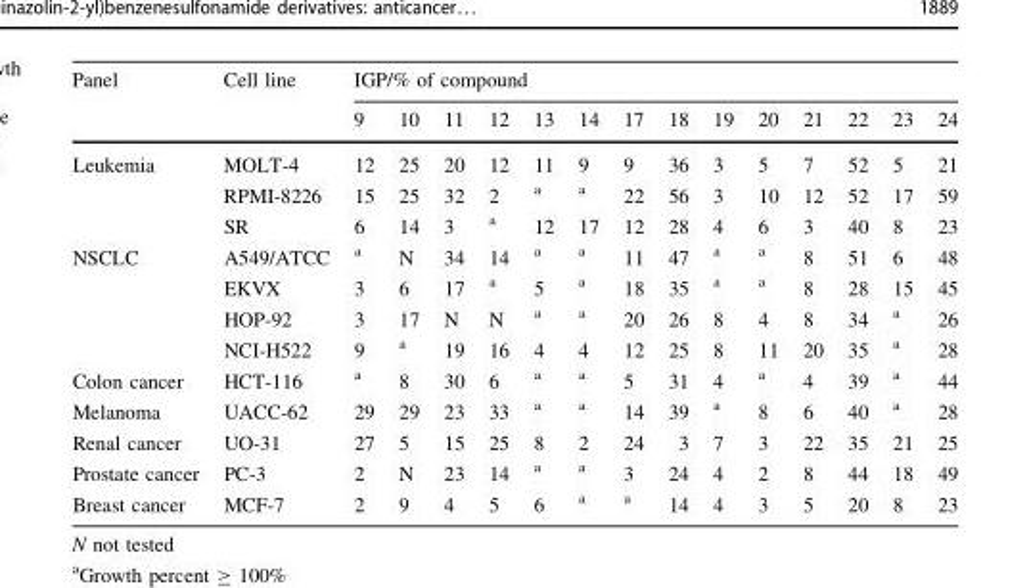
<table><thead><tr><td rowspan="2">Panel</td><td rowspan="2">Cell line</td><td colspan="14">IGP/% of compound</td></tr><tr><td>9</td><td>10</td><td>11</td><td>12</td><td>13</td><td>14</td><td>17</td><td>18</td><td>19</td><td>20</td><td>21</td><td>22</td><td>23</td><td>24</td></tr></thead><tbody><tr><td rowspan="3">Leukemia</td><td>MOLT-4</td><td>12</td><td>25</td><td>20</td><td>12</td><td>11</td><td>9</td><td>9</td><td>36</td><td>3</td><td>5</td><td>7</td><td>52</td><td>5</td><td>21</td></tr><tr><td>RPMI-8226</td><td>15</td><td>25</td><td>32</td><td>2</td><td><sup>a</sup></td><td><sup>a</sup></td><td>22</td><td>56</td><td>3</td><td>10</td><td>12</td><td>52</td><td>17</td><td>59</td></tr><tr><td>SR</td><td>6</td><td>14</td><td>3</td><td><sup>a</sup></td><td>12</td><td>17</td><td>12</td><td>28</td><td>4</td><td>6</td><td>3</td><td>40</td><td>8</td><td>23</td></tr><tr><td rowspan="4">NSCLC</td><td>A549/ATCC</td><td><sup>a</sup></td><td>N</td><td>34</td><td>14</td><td><sup>a</sup></td><td><sup>a</sup></td><td>11</td><td>47</td><td><sup>a</sup></td><td><sup>a</sup></td><td>8</td><td>51</td><td>6</td><td>48</td></tr><tr><td>EKVX</td><td>3</td><td>6</td><td>17</td><td><sup>a</sup></td><td>5</td><td><sup>a</sup></td><td>18</td><td>35</td><td><sup>a</sup></td><td><sup>a</sup></td><td>8</td><td>28</td><td>15</td><td>45</td></tr><tr><td>HOP-92</td><td>3</td><td>17</td><td>N</td><td>N</td><td><sup>a</sup></td><td><sup>a</sup></td><td>20</td><td>26</td><td>8</td><td>4</td><td>8</td><td>34</td><td><sup>a</sup></td><td>26</td></tr><tr><td>NCI-H522</td><td>9</td><td><sup>a</sup></td><td>19</td><td>16</td><td>4</td><td>4</td><td>12</td><td>25</td><td>8</td><td>11</td><td>20</td><td>35</td><td><sup>a</sup></td><td>28</td></tr><tr><td>Colon cancer</td><td>HCT-116</td><td><sup>a</sup></td><td>8</td><td>30</td><td>6</td><td><sup>a</sup></td><td><sup>a</sup></td><td>5</td><td>31</td><td>4</td><td><sup>a</sup></td><td>4</td><td>39</td><td><sup>a</sup></td><td>44</td></tr><tr><td>Melanoma</td><td>UACC-62</td><td>29</td><td>29</td><td>23</td><td>33</td><td><sup>a</sup></td><td><sup>a</sup></td><td>14</td><td>39</td><td><sup>a</sup></td><td>8</td><td>6</td><td>40</td><td><sup>a</sup></td><td>28</td></tr><tr><td>Renal cancer</td><td>UO-31</td><td>27</td><td>5</td><td>15</td><td>25</td><td>8</td><td>2</td><td>24</td><td>3</td><td>7</td><td>3</td><td>22</td><td>35</td><td>21</td><td>25</td></tr><tr><td>Prostate cancer</td><td>PC-3</td><td>2</td><td>N</td><td>23</td><td>14</td><td><sup>a</sup></td><td><sup>a</sup></td><td>3</td><td>24</td><td>4</td><td>2</td><td>8</td><td>44</td><td>18</td><td>49</td></tr><tr><td>Breast cancer</td><td>MCF-7</td><td>2</td><td>9</td><td>4</td><td>5</td><td>6</td><td><sup>a</sup></td><td><sup>a</sup></td><td>14</td><td>4</td><td>3</td><td>5</td><td>20</td><td>8</td><td>23</td></tr></tbody></table>